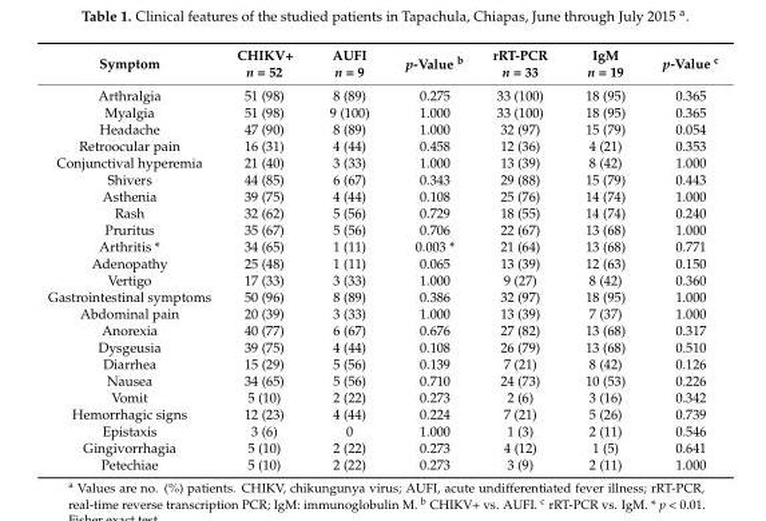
<table><thead><tr><td>Symptom</td><td>CHIKV+ n = 52</td><td>AUFI n = 9</td><td>p-Value <sup>b</sup></td><td>rRT-PCR n = 33</td><td>IgM n = 19</td><td>p-Value <sup>c</sup></td></tr></thead><tbody><tr><td>Arthralgia</td><td>51 (98)</td><td>8 (89)</td><td>0.275</td><td>33 (100)</td><td>18 (95)</td><td>0.365</td></tr><tr><td>Myalgia</td><td>51 (98)</td><td>9 (100)</td><td>1.000</td><td>33 (100)</td><td>18 (95)</td><td>0.365</td></tr><tr><td>Headache</td><td>47 (90)</td><td>8 (89)</td><td>1.000</td><td>32 (97)</td><td>15 (79)</td><td>0.054</td></tr><tr><td>Retroocular pain</td><td>16 (31)</td><td>4 (44)</td><td>0.458</td><td>12 (36)</td><td>4 (21)</td><td>0.353</td></tr><tr><td>Conjunctival hyperemia</td><td>21 (40)</td><td>3 (33)</td><td>1.000</td><td>13 (39)</td><td>8 (42)</td><td>1.000</td></tr><tr><td>Shivers</td><td>44 (85)</td><td>6 (67)</td><td>0.343</td><td>29 (88)</td><td>15 (79)</td><td>0.443</td></tr><tr><td>Asthenia</td><td>39 (75)</td><td>4 (44)</td><td>0.108</td><td>25 (76)</td><td>14 (74)</td><td>1.000</td></tr><tr><td>Rash</td><td>32 (62)</td><td>5 (56)</td><td>0.729</td><td>18 (55)</td><td>14 (74)</td><td>0.240</td></tr><tr><td>Pruritus</td><td>35 (67)</td><td>5 (56)</td><td>0.706</td><td>22 (67)</td><td>13 (68)</td><td>1.000</td></tr><tr><td>Arthritis *</td><td>34 (65)</td><td>1 (11)</td><td>0.003 *</td><td>21 (64)</td><td>13 (68)</td><td>0.771</td></tr><tr><td>Adenopathy</td><td>25 (48)</td><td>1 (11)</td><td>0.065</td><td>13 (39)</td><td>12 (63)</td><td>0.150</td></tr><tr><td>Vertigo</td><td>17 (33)</td><td>3 (33)</td><td>1.000</td><td>9 (27)</td><td>8 (42)</td><td>0.360</td></tr><tr><td>Gastrointestinal symptoms</td><td>50 (96)</td><td>8 (89)</td><td>0.386</td><td>32 (97)</td><td>18 (95)</td><td>1.000</td></tr><tr><td>Abdominal pain</td><td>20 (39)</td><td>3 (33)</td><td>1.000</td><td>13 (39)</td><td>7 (37)</td><td>1.000</td></tr><tr><td>Anorexia</td><td>40 (77)</td><td>6 (67)</td><td>0.676</td><td>27 (82)</td><td>13 (68)</td><td>0.317</td></tr><tr><td>Dysgeusia</td><td>39 (75)</td><td>4 (44)</td><td>0.108</td><td>26 (79)</td><td>13 (68)</td><td>0.510</td></tr><tr><td>Diarrhea</td><td>15 (29)</td><td>5 (56)</td><td>0.139</td><td>7 (21)</td><td>8 (42)</td><td>0.126</td></tr><tr><td>Nausea</td><td>34 (65)</td><td>5 (56)</td><td>0.710</td><td>24 (73)</td><td>10 (53)</td><td>0.226</td></tr><tr><td>Vomit</td><td>5 (10)</td><td>2 (22)</td><td>0.273</td><td>2 (6)</td><td>3 (16)</td><td>0.342</td></tr><tr><td>Hemorrhagic signs</td><td>12 (23)</td><td>4 (44)</td><td>0.224</td><td>7 (21)</td><td>5 (26)</td><td>0.739</td></tr><tr><td>Epistaxis</td><td>3 (6)</td><td>0</td><td>1.000</td><td>1 (3)</td><td>2 (11)</td><td>0.546</td></tr><tr><td>Gingivorrhagia</td><td>5 (10)</td><td>2 (22)</td><td>0.273</td><td>4 (12)</td><td>1 (5)</td><td>0.641</td></tr><tr><td>Petechiae</td><td>5 (10)</td><td>2 (22)</td><td>0.273</td><td>3 (9)</td><td>2 (11)</td><td>1.000</td></tr></tbody></table>